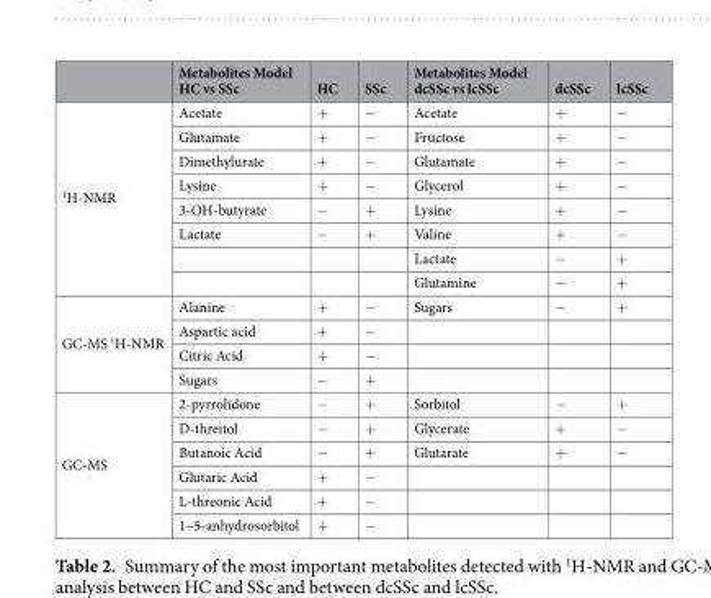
<table><thead><tr><td></td><td>Metabolites Model HC vs SSc</td><td>HC</td><td>SSc</td><td>Metabolites Model dcSSc vs lcSSc</td><td>dcSSc</td><td>lcSSc</td></tr></thead><tbody><tr><td rowspan="8"><sup>1</sup>H-NMR</td><td>Acetate</td><td>+</td><td>−</td><td>Acetate</td><td>+</td><td>−</td></tr><tr><td>Glutamate</td><td>+</td><td>−</td><td>Fructose</td><td>+</td><td>−</td></tr><tr><td>Dimethylurate</td><td>+</td><td>−</td><td>Glutamate</td><td>+</td><td>−</td></tr><tr><td>Lysine</td><td>+</td><td>−</td><td>Glycerol</td><td>+</td><td>−</td></tr><tr><td>3-OH-butyrate</td><td>−</td><td>+</td><td>Lysine</td><td>+</td><td>−</td></tr><tr><td>Lactate</td><td>−</td><td>+</td><td>Valine</td><td>+</td><td>−</td></tr><tr><td></td><td></td><td></td><td>Lactate</td><td>−</td><td>+</td></tr><tr><td></td><td></td><td></td><td>Glutamine</td><td>−</td><td>+</td></tr><tr><td rowspan="4">GC-MS <sup>1</sup>H-NMR</td><td>Alanine</td><td>+</td><td>−</td><td>Sugars</td><td>−</td><td>+</td></tr><tr><td>Aspartic acid</td><td>+</td><td>−</td><td></td><td></td><td></td></tr><tr><td>Citric Acid</td><td>+</td><td>−</td><td></td><td></td><td></td></tr><tr><td>Sugars</td><td>−</td><td>+</td><td></td><td></td><td></td></tr><tr><td rowspan="6">GC-MS</td><td>2-pyrrolidone</td><td>−</td><td>+</td><td>Sorbitol</td><td>−</td><td>+</td></tr><tr><td>D-threitol</td><td>−</td><td>+</td><td>Glycerate</td><td>+</td><td>−</td></tr><tr><td>Butanoic Acid</td><td>−</td><td>+</td><td>Glutarate</td><td>+</td><td>−</td></tr><tr><td>Glutaric Acid</td><td>+</td><td>−</td><td></td><td></td><td></td></tr><tr><td>L-threonic Acid</td><td>+</td><td>−</td><td></td><td></td><td></td></tr><tr><td>1–5-anhydrosorbitol</td><td>+</td><td>−</td><td></td><td></td><td></td></tr></tbody></table>